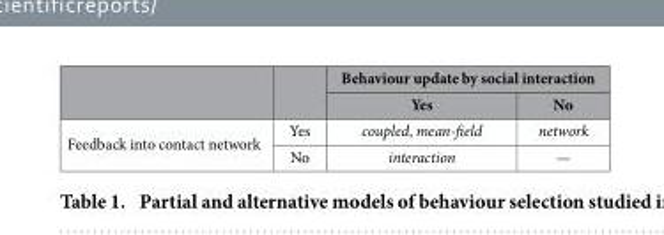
<table><thead><tr><td rowspan="2"></td><td rowspan="2"></td><td colspan="2">Behaviour update by social interaction</td></tr><tr><td>Yes</td><td>No</td></tr></thead><tbody><tr><td rowspan="2">Feedback into contact network</td><td>Yes</td><td>coupled, mean-field</td><td>network</td></tr><tr><td>No</td><td>interaction</td><td>—</td></tr></tbody></table>